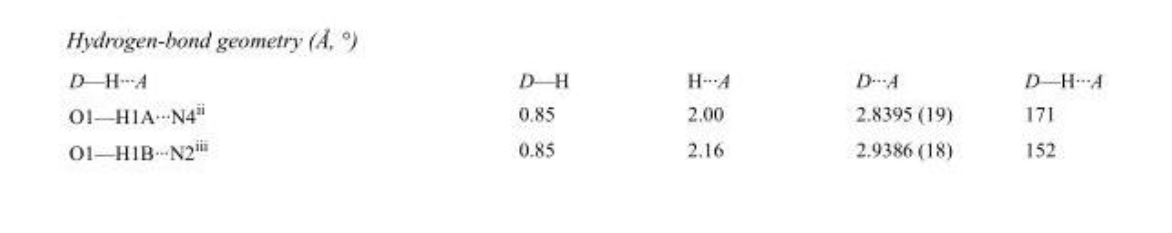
<table><tbody><tr><td>D—H···A</td><td>D—H</td><td>H···A</td><td>D···A</td><td>D—H···A</td></tr><tr><td>O1—H1A···N4<sup>ii</sup></td><td>0.85</td><td>2.00</td><td>2.8395 (19)</td><td>171</td></tr><tr><td>O1—H1B···N2<sup>iii</sup></td><td>0.85</td><td>2.16</td><td>2.9386 (18)</td><td>152</td></tr></tbody></table>